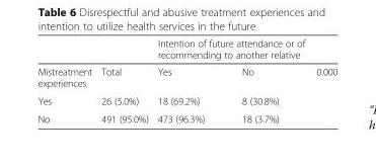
<table><thead><tr><td rowspan="2">Mistreatment experiences</td><td rowspan="2">Total</td><td colspan="2">Intention of future attendance or of recommending to another relative</td><td rowspan="2">0.000</td></tr><tr><td>Yes</td><td>No</td></tr></thead><tbody><tr><td>Yes</td><td>26 (5.0%)</td><td>18 (69.2%)</td><td>8 (30.8%)</td><td></td></tr><tr><td>No</td><td>491 (95.0%)</td><td>473 (96.3%)</td><td>18 (3.7%)</td><td></td></tr></tbody></table>